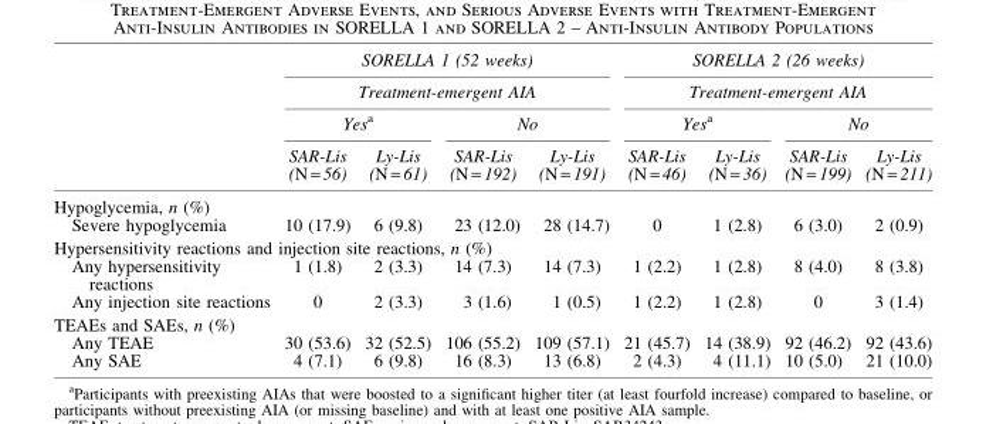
<table><thead><tr><td rowspan="4"></td><td rowspan="2" colspan="4">SORELLA 1 (52 weeks) Treatment-emergent AIA</td><td rowspan="2" colspan="4">SORELLA 2 (26 weeks) Treatment-emergent AIA</td></tr><tr></tr><tr><td colspan="2">Yes<sup>a</sup></td><td colspan="2">No</td><td colspan="2">Yes<sup>a</sup></td><td colspan="2">No</td></tr><tr><td>SAR-Lis (N = 56)</td><td>Ly-Lis (N = 61)</td><td>SAR-Lis (N = 192)</td><td>Ly-Lis (N = 191)</td><td>SAR-Lis (N = 46)</td><td>Ly-Lis (N = 36)</td><td>SAR-Lis (N = 199)</td><td>Ly-Lis (N = 211)</td></tr></thead><tbody><tr><td colspan="9">Hypoglycemia, n (%)</td></tr><tr><td>Severe hypoglycemia</td><td>10 (17.9)</td><td>6 (9.8)</td><td>23 (12.0)</td><td>28 (14.7)</td><td>0</td><td>1 (2.8)</td><td>6 (3.0)</td><td>2 (0.9)</td></tr><tr><td colspan="9">Hypersensitivity reactions and injection site reactions, n (%)</td></tr><tr><td>Any hypersensitivity reactions</td><td>1 (1.8)</td><td>2 (3.3)</td><td>14 (7.3)</td><td>14 (7.3)</td><td>1 (2.2)</td><td>1 (2.8)</td><td>8 (4.0)</td><td>8 (3.8)</td></tr><tr><td>Any injection site reactions</td><td>0</td><td>2 (3.3)</td><td>3 (1.6)</td><td>1 (0.5)</td><td>1 (2.2)</td><td>1 (2.8)</td><td>0</td><td>3 (1.4)</td></tr><tr><td colspan="9">TEAEs and SAEs, n (%)</td></tr><tr><td>Any TEAE</td><td>30 (53.6)</td><td>32 (52.5)</td><td>106 (55.2)</td><td>109 (57.1)</td><td>21 (45.7)</td><td>14 (38.9)</td><td>92 (46.2)</td><td>92 (43.6)</td></tr><tr><td>Any SAE</td><td>4 (7.1)</td><td>6 (9.8)</td><td>16 (8.3)</td><td>13 (6.8)</td><td>2 (4.3)</td><td>4 (11.1)</td><td>10 (5.0)</td><td>21 (10.0)</td></tr></tbody></table>